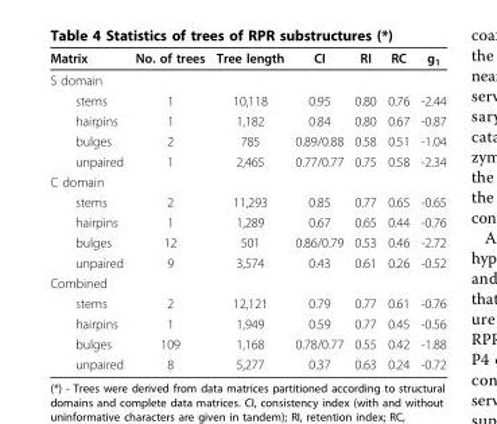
<table><thead><tr><td>Matrix</td><td>No. of trees</td><td>Tree length</td><td>CI</td><td>RI</td><td>RC</td><td>g<sub>1</sub></td></tr></thead><tbody><tr><td colspan="7">S domain</td></tr><tr><td>stems</td><td>1</td><td>10,118</td><td>0.95</td><td>0.80</td><td>0.76</td><td>-2.44</td></tr><tr><td>hairpins</td><td>1</td><td>1,182</td><td>0.84</td><td>0.80</td><td>0.67</td><td>-0.87</td></tr><tr><td>bulges</td><td>2</td><td>785</td><td>0.89/0.88</td><td>0.58</td><td>0.51</td><td>-1.04</td></tr><tr><td>unpaired</td><td>1</td><td>2,465</td><td>0.77/0.77</td><td>0.75</td><td>0.58</td><td>-2.34</td></tr><tr><td colspan="7">C domain</td></tr><tr><td>stems</td><td>2</td><td>11,293</td><td>0.85</td><td>0.77</td><td>0.65</td><td>-0.65</td></tr><tr><td>hairpins</td><td>1</td><td>1,289</td><td>0.67</td><td>0.65</td><td>0.44</td><td>-0.76</td></tr><tr><td>bulges</td><td>12</td><td>501</td><td>0.86/0.79</td><td>0.53</td><td>0.46</td><td>-2.72</td></tr><tr><td>unpaired</td><td>9</td><td>3,574</td><td>0.43</td><td>0.61</td><td>0.26</td><td>-0.52</td></tr><tr><td colspan="7">Combined</td></tr><tr><td>stems</td><td>2</td><td>12,121</td><td>0.79</td><td>0.77</td><td>0.61</td><td>-0.76</td></tr><tr><td>hairpins</td><td>1</td><td>1,949</td><td>0.59</td><td>0.77</td><td>0.45</td><td>-0.56</td></tr><tr><td>bulges</td><td>109</td><td>1,168</td><td>0.78/0.77</td><td>0.55</td><td>0.42</td><td>-1.88</td></tr><tr><td>unpaired</td><td>8</td><td>5,277</td><td>0.37</td><td>0.63</td><td>0.24</td><td>-0.72</td></tr></tbody></table>